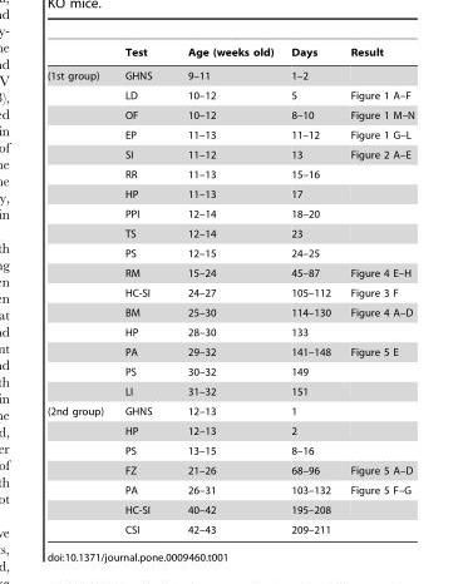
<table><thead><tr><td></td><td>Test</td><td>Age (weeks old)</td><td>Days</td><td>Result</td></tr></thead><tbody><tr><td rowspan="17">(1st group)</td><td>GHNS</td><td>9–11</td><td>1–2</td><td></td></tr><tr><td>LD</td><td>10–12</td><td>5</td><td>Figure 1 A–F</td></tr><tr><td>OF</td><td>10–12</td><td>8–10</td><td>Figure 1 M–N</td></tr><tr><td>EP</td><td>11–13</td><td>11–12</td><td>Figure 1 G–L</td></tr><tr><td>SI</td><td>11–12</td><td>13</td><td>Figure 2 A–E</td></tr><tr><td>RR</td><td>11–13</td><td>15–16</td><td></td></tr><tr><td>HP</td><td>11–13</td><td>17</td><td></td></tr><tr><td>PPI</td><td>12–14</td><td>18–20</td><td></td></tr><tr><td>TS</td><td>12–14</td><td>23</td><td></td></tr><tr><td>PS</td><td>12–15</td><td>24–25</td><td></td></tr><tr><td>RM</td><td>15–24</td><td>45–87</td><td>Figure 4 E–H</td></tr><tr><td>HC-SI</td><td>24–27</td><td>105–112</td><td>Figure 3 F</td></tr><tr><td>BM</td><td>25–30</td><td>114–130</td><td>Figure 4 A–D</td></tr><tr><td>HP</td><td>28–30</td><td>133</td><td></td></tr><tr><td>PA</td><td>29–32</td><td>141–148</td><td>Figure 5 E</td></tr><tr><td>PS</td><td>30–32</td><td>149</td><td></td></tr><tr><td>LI</td><td>31–32</td><td>151</td><td></td></tr><tr><td rowspan="7">(2nd group)</td><td>GHNS</td><td>12–13</td><td>1</td><td></td></tr><tr><td>HP</td><td>12–13</td><td>2</td><td></td></tr><tr><td>PS</td><td>13–15</td><td>8–16</td><td></td></tr><tr><td>FZ</td><td>21–26</td><td>68–96</td><td>Figure 5 A–D</td></tr><tr><td>PA</td><td>26–31</td><td>103–132</td><td>Figure 5 F–G</td></tr><tr><td>HC-SI</td><td>40–42</td><td>195–208</td><td></td></tr><tr><td>CSI</td><td>42–43</td><td>209–211</td><td></td></tr></tbody></table>